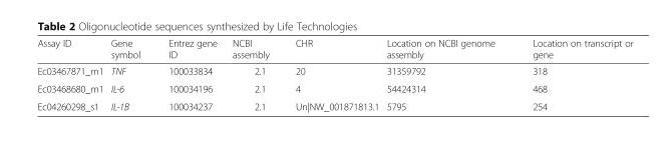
<table><thead><tr><td>Assay ID</td><td>Gene symbol</td><td>Entrez gene ID</td><td>NCBI assembly</td><td>CHR</td><td>Location on NCBI genome assembly</td><td>Location on transcript or gene</td></tr></thead><tbody><tr><td>Ec03467871_m1</td><td>TNF</td><td>100033834</td><td>2.1</td><td>20</td><td>31359792</td><td>318</td></tr><tr><td>Ec03468680_m1</td><td>IL-6</td><td>100034196</td><td>2.1</td><td>4</td><td>54424314</td><td>468</td></tr><tr><td>Ec04260298_s1</td><td>IL-1B</td><td>100034237</td><td>2.1</td><td>Un|NW_001871813.1</td><td>5795</td><td>254</td></tr></tbody></table>